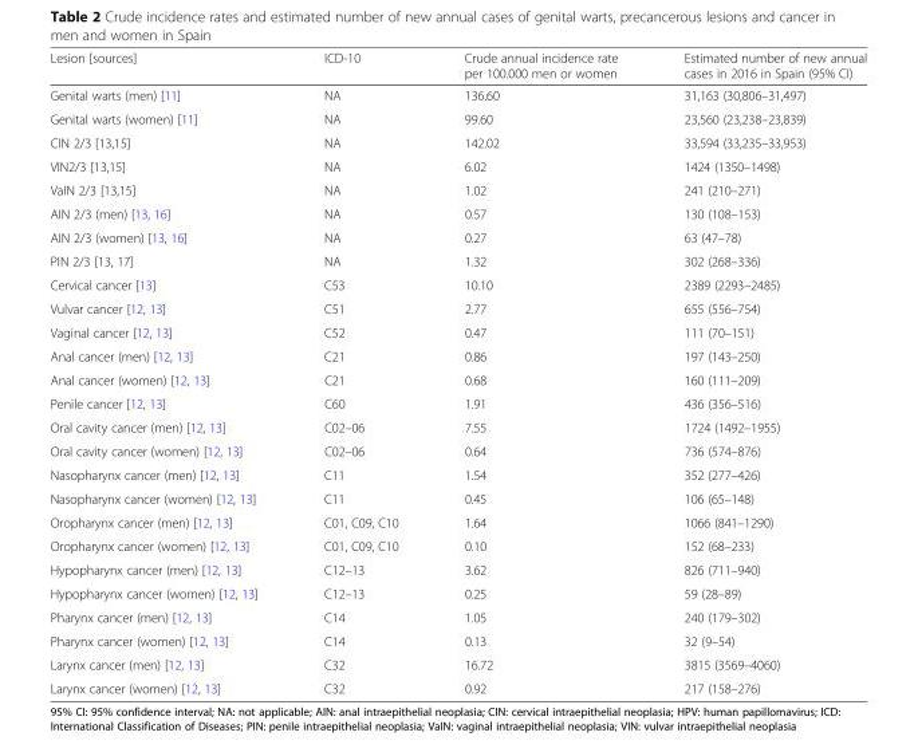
<table><thead><tr><td>Lesion [sources]</td><td>ICD-10</td><td>Crude annual incidence rate per 100.000 men or women</td><td>Estimated number of new annual cases in 2016 in Spain (95% CI)</td></tr></thead><tbody><tr><td>Genital warts (men) [11]</td><td>NA</td><td>136.60</td><td>31,163 (30,806–31,497)</td></tr><tr><td>Genital warts (women) [11]</td><td>NA</td><td>99.60</td><td>23,560 (23,238–23,839)</td></tr><tr><td>CIN 2/3 [13,15]</td><td>NA</td><td>142.02</td><td>33,594 (33,235–33,953)</td></tr><tr><td>VIN2/3 [13,15]</td><td>NA</td><td>6.02</td><td>1424 (1350–1498)</td></tr><tr><td>VaIN 2/3 [13,15]</td><td>NA</td><td>1.02</td><td>241 (210–271)</td></tr><tr><td>AIN 2/3 (men) [13, 16]</td><td>NA</td><td>0.57</td><td>130 (108–153)</td></tr><tr><td>AIN 2/3 (women) [13, 16]</td><td>NA</td><td>0.27</td><td>63 (47–78)</td></tr><tr><td>PIN 2/3 [13, 17]</td><td>NA</td><td>1.32</td><td>302 (268–336)</td></tr><tr><td>Cervical cancer [13]</td><td>C53</td><td>10.10</td><td>2389 (2293–2485)</td></tr><tr><td>Vulvar cancer [12, 13]</td><td>C51</td><td>2.77</td><td>655 (556–754)</td></tr><tr><td>Vaginal cancer [12, 13]</td><td>C52</td><td>0.47</td><td>111 (70–151)</td></tr><tr><td>Anal cancer (men) [12, 13]</td><td>C21</td><td>0.86</td><td>197 (143–250)</td></tr><tr><td>Anal cancer (women) [12, 13]</td><td>C21</td><td>0.68</td><td>160 (111–209)</td></tr><tr><td>Penile cancer [12, 13]</td><td>C60</td><td>1.91</td><td>436 (356–516)</td></tr><tr><td>Oral cavity cancer (men) [12, 13]</td><td>C02–06</td><td>7.55</td><td>1724 (1492–1955)</td></tr><tr><td>Oral cavity cancer (women) [12, 13]</td><td>C02–06</td><td>0.64</td><td>736 (574–876)</td></tr><tr><td>Nasopharynx cancer (men) [12, 13]</td><td>C11</td><td>1.54</td><td>352 (277–426)</td></tr><tr><td>Nasopharynx cancer (women) [12, 13]</td><td>C11</td><td>0.45</td><td>106 (65–148)</td></tr><tr><td>Oropharynx cancer (men) [12, 13]</td><td>C01, C09, C10</td><td>1.64</td><td>1066 (841–1290)</td></tr><tr><td>Oropharynx cancer (women) [12, 13]</td><td>C01, C09, C10</td><td>0.10</td><td>152 (68–233)</td></tr><tr><td>Hypopharynx cancer (men) [12, 13]</td><td>C12–13</td><td>3.62</td><td>826 (711–940)</td></tr><tr><td>Hypopharynx cancer (women) [12, 13]</td><td>C12–13</td><td>0.25</td><td>59 (28–89)</td></tr><tr><td>Pharynx cancer (men) [12, 13]</td><td>C14</td><td>1.05</td><td>240 (179–302)</td></tr><tr><td>Pharynx cancer (women) [12, 13]</td><td>C14</td><td>0.13</td><td>32 (9–54)</td></tr><tr><td>Larynx cancer (men) [12, 13]</td><td>C32</td><td>16.72</td><td>3815 (3569–4060)</td></tr><tr><td>Larynx cancer (women) [12, 13]</td><td>C32</td><td>0.92</td><td>217 (158–276)</td></tr></tbody></table>